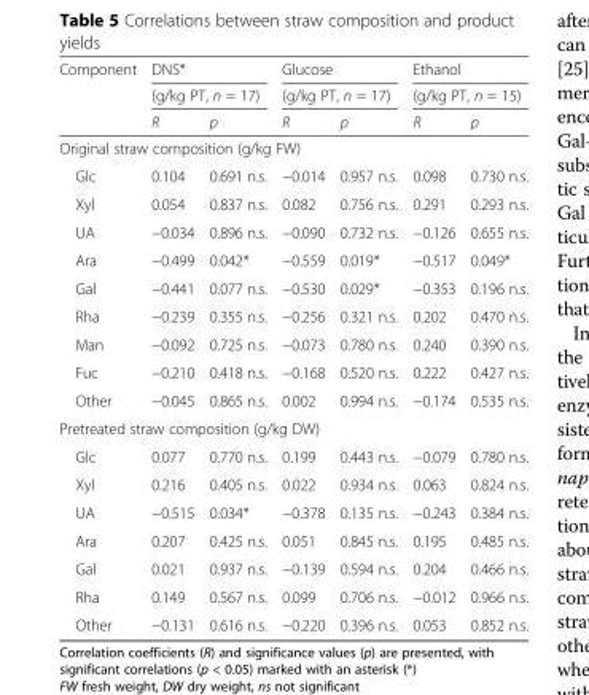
<table><thead><tr><td rowspan="3">Component</td><td rowspan="2" colspan="2">DNS* (g/kg PT, n = 17)</td><td rowspan="2" colspan="2">Glucose (g/kg PT, n = 17)</td><td rowspan="2" colspan="2">Ethanol (g/kg PT, n = 15)</td></tr><tr></tr><tr><td>R</td><td>p</td><td>R</td><td>p</td><td>R</td><td>p</td></tr></thead><tbody><tr><td colspan="7">Original straw composition (g/kg FW)</td></tr><tr><td>Glc</td><td>0.104</td><td>0.691 n.s.</td><td>−0.014</td><td>0.957 n.s.</td><td>0.098</td><td>0.730 n.s.</td></tr><tr><td>Xyl</td><td>0.054</td><td>0.837 n.s.</td><td>0.082</td><td>0.756 n.s.</td><td>0.291</td><td>0.293 n.s.</td></tr><tr><td>UA</td><td>−0.034</td><td>0.896 n.s.</td><td>−0.090</td><td>0.732 n.s.</td><td>−0.126</td><td>0.655 n.s.</td></tr><tr><td>Ara</td><td>−0.499</td><td>0.042*</td><td>−0.559</td><td>0.019*</td><td>−0.517</td><td>0.049*</td></tr><tr><td>Gal</td><td>−0.441</td><td>0.077 n.s.</td><td>−0.530</td><td>0.029*</td><td>−0.353</td><td>0.196 n.s.</td></tr><tr><td>Rha</td><td>−0.239</td><td>0.355 n.s.</td><td>−0.256</td><td>0.321 n.s.</td><td>0.202</td><td>0.470 n.s.</td></tr><tr><td>Man</td><td>−0.092</td><td>0.725 n.s.</td><td>−0.073</td><td>0.780 n.s.</td><td>0.240</td><td>0.390 n.s.</td></tr><tr><td>Fuc</td><td>−0.210</td><td>0.418 n.s.</td><td>−0.168</td><td>0.520 n.s.</td><td>0.222</td><td>0.427 n.s.</td></tr><tr><td>Other</td><td>−0.045</td><td>0.865 n.s.</td><td>0.002</td><td>0.994 n.s.</td><td>−0.174</td><td>0.535 n.s.</td></tr><tr><td colspan="7">Pretreated straw composition (g/kg DW)</td></tr><tr><td>Glc</td><td>0.077</td><td>0.770 n.s.</td><td>0.199</td><td>0.443 n.s.</td><td>−0.079</td><td>0.780 n.s.</td></tr><tr><td>Xyl</td><td>0.216</td><td>0.405 n.s.</td><td>0.022</td><td>0.934 n.s.</td><td>0.063</td><td>0.824 n.s.</td></tr><tr><td>UA</td><td>−0.515</td><td>0.034*</td><td>−0.378</td><td>0.135 n.s.</td><td>−0.243</td><td>0.384 n.s.</td></tr><tr><td>Ara</td><td>0.207</td><td>0.425 n.s.</td><td>0.051</td><td>0.845 n.s.</td><td>0.195</td><td>0.485 n.s.</td></tr><tr><td>Gal</td><td>0.021</td><td>0.937 n.s.</td><td>−0.139</td><td>0.594 n.s.</td><td>0.204</td><td>0.466 n.s.</td></tr><tr><td>Rha</td><td>0.149</td><td>0.567 n.s.</td><td>0.099</td><td>0.706 n.s.</td><td>−0.012</td><td>0.966 n.s.</td></tr><tr><td>Other</td><td>−0.131</td><td>0.616 n.s.</td><td>−0.220</td><td>0.396 n.s.</td><td>0.053</td><td>0.852 n.s.</td></tr></tbody></table>